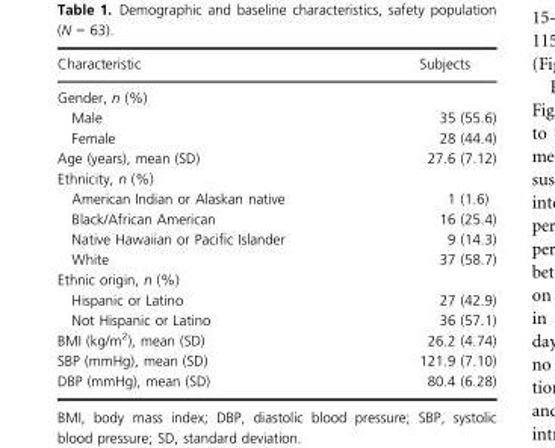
<table><thead><tr><td>Characteristic</td><td>Subjects</td></tr></thead><tbody><tr><td colspan="2">Gender, n (%)</td></tr><tr><td>Male</td><td>35 (55.6)</td></tr><tr><td>Female</td><td>28 (44.4)</td></tr><tr><td>Age (years), mean (SD)</td><td>27.6 (7.12)</td></tr><tr><td colspan="2">Ethnicity, n (%)</td></tr><tr><td>American Indian or Alaskan native</td><td>1 (1.6)</td></tr><tr><td>Black/African American</td><td>16 (25.4)</td></tr><tr><td>Native Hawaiian or Pacific Islander</td><td>9 (14.3)</td></tr><tr><td>White</td><td>37 (58.7)</td></tr><tr><td colspan="2">Ethnic origin, n (%)</td></tr><tr><td>Hispanic or Latino</td><td>27 (42.9)</td></tr><tr><td>Not Hispanic or Latino</td><td>36 (57.1)</td></tr><tr><td>BMI (kg/m<sup>2</sup>), mean (SD)</td><td>26.2 (4.74)</td></tr><tr><td>SBP (mmHg), mean (SD)</td><td>121.9 (7.10)</td></tr><tr><td>DBP (mmHg), mean (SD)</td><td>80.4 (6.28)</td></tr></tbody></table>